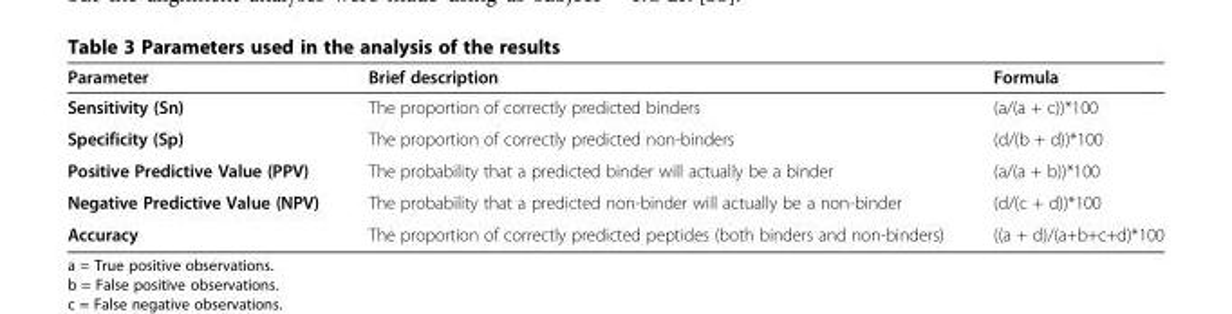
<table><thead><tr><td>Parameter</td><td>Brief description</td><td>Formula</td></tr></thead><tbody><tr><td>Sensitivity (Sn)</td><td>The proportion of correctly predicted binders</td><td>(a/(a + c))*100</td></tr><tr><td>Specificity (Sp)</td><td>The proportion of correctly predicted non-binders</td><td>(d/(b + d))*100</td></tr><tr><td>Positive Predictive Value (PPV)</td><td>The probability that a predicted binder will actually be a binder</td><td>(a/(a + b))*100</td></tr><tr><td>Negative Predictive Value (NPV)</td><td>The probability that a predicted non-binder will actually be a non-binder</td><td>(d/(c + d))*100</td></tr><tr><td>Accuracy</td><td>The proportion of correctly predicted peptides (both binders and non-binders)</td><td>((a + d)/(a+b+c+d)*100</td></tr></tbody></table>